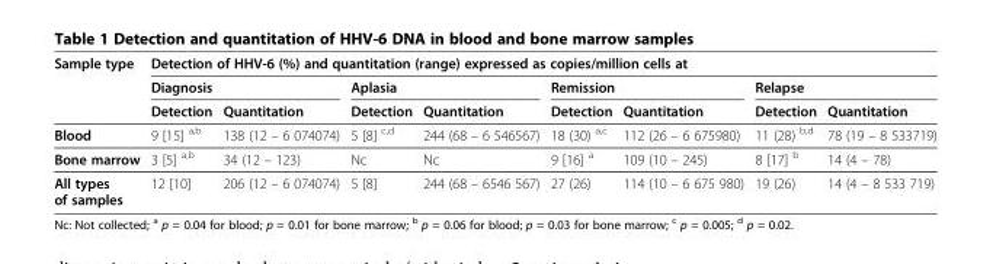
<table><thead><tr><td rowspan="3">Sample type</td><td colspan="8">Detection of HHV-6 (%) and quantitation (range) expressed as copies/million cells at</td></tr><tr><td colspan="2">Diagnosis</td><td colspan="2">Aplasia</td><td colspan="2">Remission</td><td colspan="2">Relapse</td></tr><tr><td>Detection</td><td>Quantitation</td><td>Detection</td><td>Quantitation</td><td>Detection</td><td>Quantitation</td><td>Detection</td><td>Quantitation</td></tr></thead><tbody><tr><td>Blood</td><td>9 [15] <sup>a,b</sup></td><td>138 (12 – 6 074074)</td><td>5 [8] <sup>c,d</sup></td><td>244 (68 – 6 546567)</td><td>18 (30) <sup>a,c</sup></td><td>112 (26 – 6 675980)</td><td>11 (28) <sup>b,d</sup></td><td>78 (19 – 8 533719)</td></tr><tr><td>Bone marrow</td><td>3 [5] <sup>a,b</sup></td><td>34 (12 – 123)</td><td>Nc</td><td>Nc</td><td>9 [16] <sup>a</sup></td><td>109 (10 – 245)</td><td>8 [17] <sup>b</sup></td><td>14 (4 – 78)</td></tr><tr><td>All types of samples</td><td>12 [10]</td><td>206 (12 – 6 074074)</td><td>5 [8]</td><td>244 (68 – 6546 567)</td><td>27 (26)</td><td>114 (10 – 6 675 980)</td><td>19 (26)</td><td>14 (4 – 8 533 719)</td></tr></tbody></table>